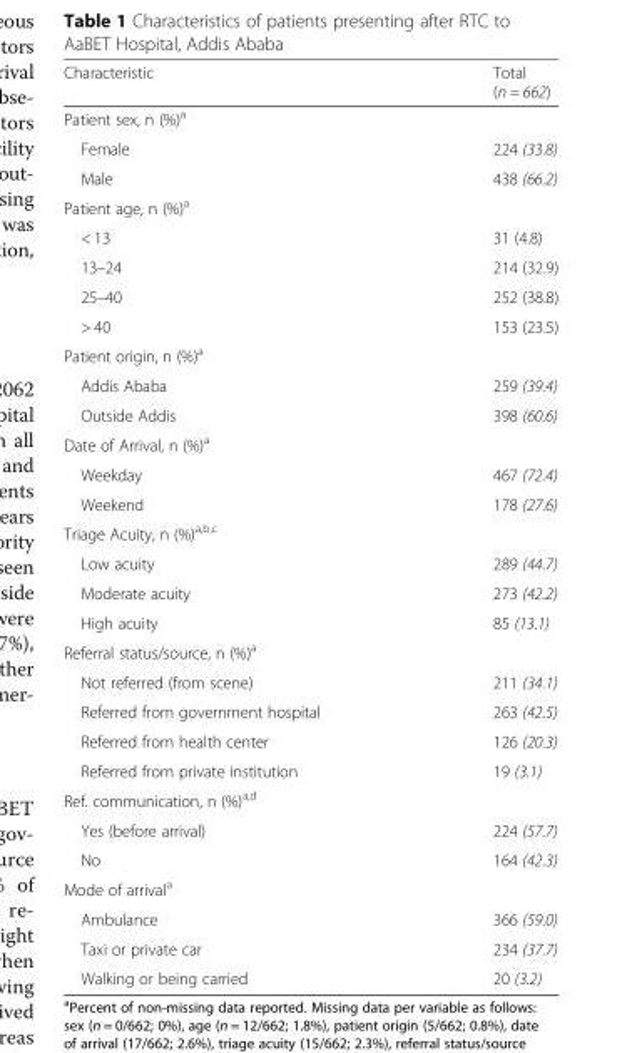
<table><thead><tr><td>Characteristic</td><td>Total (n = 662)</td></tr></thead><tbody><tr><td colspan="2">Patient sex, n (%)<sup>a</sup></td></tr><tr><td>Female</td><td>224 (33.8)</td></tr><tr><td>Male</td><td>438 (66.2)</td></tr><tr><td colspan="2">Patient age, n (%)<sup>a</sup></td></tr><tr><td>&lt; 13</td><td>31 (4.8)</td></tr><tr><td>13–24</td><td>214 (32.9)</td></tr><tr><td>25–40</td><td>252 (38.8)</td></tr><tr><td>&gt; 40</td><td>153 (23.5)</td></tr><tr><td colspan="2">Patient origin, n (%)<sup>a</sup></td></tr><tr><td>Addis Ababa</td><td>259 (39.4)</td></tr><tr><td>Outside Addis</td><td>398 (60.6)</td></tr><tr><td colspan="2">Date of Arrival, n (%)<sup>a</sup></td></tr><tr><td>Weekday</td><td>467 (72.4)</td></tr><tr><td>Weekend</td><td>178 (27.6)</td></tr><tr><td colspan="2">Triage Acuity, n (%)<sup>a,b,c</sup></td></tr><tr><td>Low acuity</td><td>289 (44.7)</td></tr><tr><td>Moderate acuity</td><td>273 (42.2)</td></tr><tr><td>High acuity</td><td>85 (13.1)</td></tr><tr><td colspan="2">Referral status/source, n (%)<sup>a</sup></td></tr><tr><td>Not referred (from scene)</td><td>211 (34.1)</td></tr><tr><td>Referred from government hospital</td><td>263 (42.5)</td></tr><tr><td>Referred from health center</td><td>126 (20.3)</td></tr><tr><td>Referred from private institution</td><td>19 (3.1)</td></tr><tr><td colspan="2">Ref. communication, n (%)<sup>a,d</sup></td></tr><tr><td>Yes (before arrival)</td><td>224 (57.7)</td></tr><tr><td>No</td><td>164 (42.3)</td></tr><tr><td colspan="2">Mode of arrival<sup>a</sup></td></tr><tr><td>Ambulance</td><td>366 (59.0)</td></tr><tr><td>Taxi or private car</td><td>234 (37.7)</td></tr><tr><td>Walking or being carried</td><td>20 (3.2)</td></tr></tbody></table>